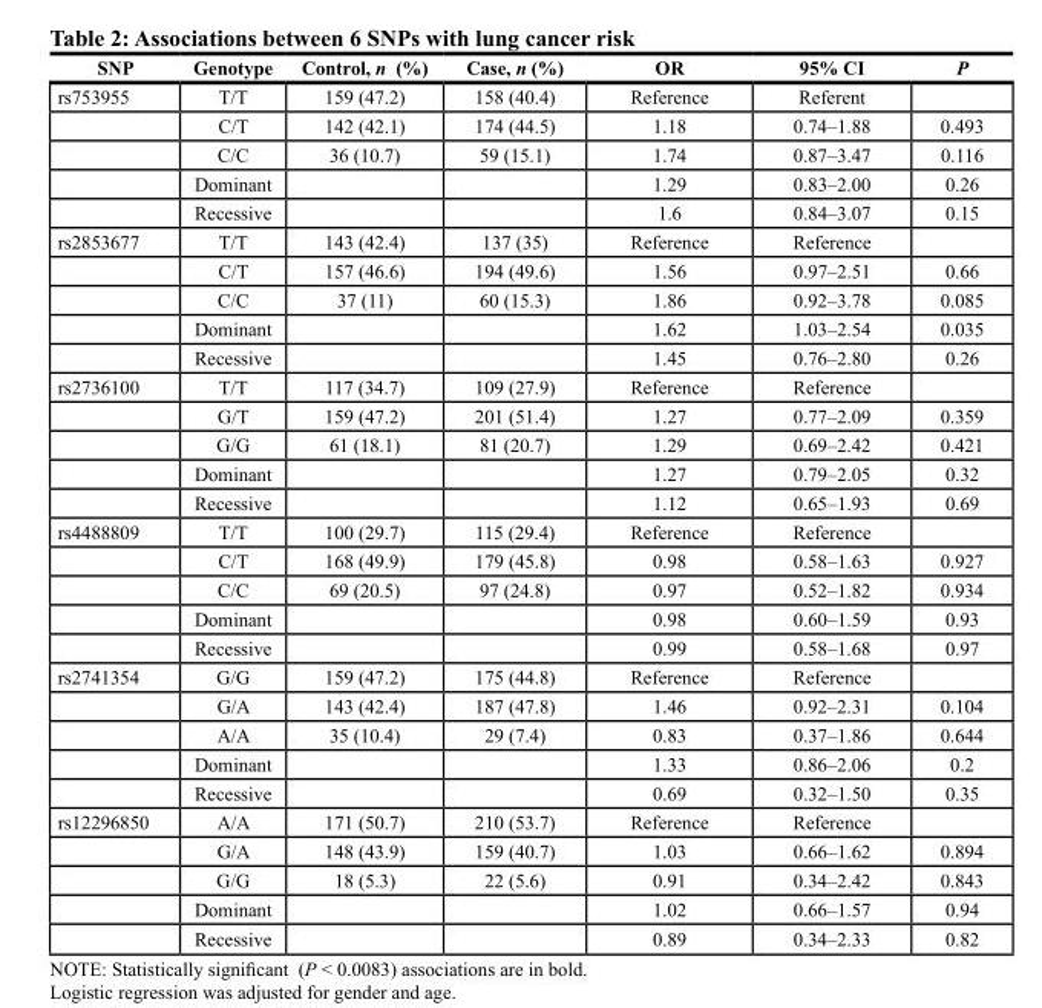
<table><thead><tr><td>snP</td><td>Genotype</td><td>control, n (%)</td><td>case, n (%)</td><td>or</td><td>95% cI</td><td>P</td></tr></thead><tbody><tr><td rowspan="5">rs753955</td><td>T/T</td><td>159 (47.2)</td><td>158 (40.4)</td><td>Reference</td><td>Referent</td><td></td></tr><tr><td>C/T</td><td>142 (42.1)</td><td>174 (44.5)</td><td>1.18</td><td>0.74–1.88</td><td>0.493</td></tr><tr><td>C/C</td><td>36 (10.7)</td><td>59 (15.1)</td><td>1.74</td><td>0.87–3.47</td><td>0.116</td></tr><tr><td>Dominant</td><td></td><td></td><td>1.29</td><td>0.83–2.00</td><td>0.26</td></tr><tr><td>Recessive</td><td></td><td></td><td>1.6</td><td>0.84–3.07</td><td>0.15</td></tr><tr><td rowspan="5">rs2853677</td><td>T/T</td><td>143 (42.4)</td><td>137 (35)</td><td>Reference</td><td>Reference</td><td></td></tr><tr><td>C/T</td><td>157 (46.6)</td><td>194 (49.6)</td><td>1.56</td><td>0.97–2.51</td><td>0.66</td></tr><tr><td>C/C</td><td>37 (11)</td><td>60 (15.3)</td><td>1.86</td><td>0.92–3.78</td><td>0.085</td></tr><tr><td>Dominant</td><td></td><td></td><td>1.62</td><td>1.03–2.54</td><td>0.035</td></tr><tr><td>Recessive</td><td></td><td></td><td>1.45</td><td>0.76–2.80</td><td>0.26</td></tr><tr><td rowspan="5">rs2736100</td><td>T/T</td><td>117 (34.7)</td><td>109 (27.9)</td><td>Reference</td><td>Reference</td><td></td></tr><tr><td>G/T</td><td>159 (47.2)</td><td>201 (51.4)</td><td>1.27</td><td>0.77–2.09</td><td>0.359</td></tr><tr><td>G/G</td><td>61 (18.1)</td><td>81 (20.7)</td><td>1.29</td><td>0.69–2.42</td><td>0.421</td></tr><tr><td>Dominant</td><td></td><td></td><td>1.27</td><td>0.79–2.05</td><td>0.32</td></tr><tr><td>Recessive</td><td></td><td></td><td>1.12</td><td>0.65–1.93</td><td>0.69</td></tr><tr><td rowspan="5">rs4488809</td><td>T/T</td><td>100 (29.7)</td><td>115 (29.4)</td><td>Reference</td><td>Reference</td><td></td></tr><tr><td>C/T</td><td>168 (49.9)</td><td>179 (45.8)</td><td>0.98</td><td>0.58–1.63</td><td>0.927</td></tr><tr><td>C/C</td><td>69 (20.5)</td><td>97 (24.8)</td><td>0.97</td><td>0.52–1.82</td><td>0.934</td></tr><tr><td>Dominant</td><td></td><td></td><td>0.98</td><td>0.60–1.59</td><td>0.93</td></tr><tr><td>Recessive</td><td></td><td></td><td>0.99</td><td>0.58–1.68</td><td>0.97</td></tr><tr><td rowspan="5">rs2741354</td><td>G/G</td><td>159 (47.2)</td><td>175 (44.8)</td><td>Reference</td><td>Reference</td><td></td></tr><tr><td>G/A</td><td>143 (42.4)</td><td>187 (47.8)</td><td>1.46</td><td>0.92–2.31</td><td>0.104</td></tr><tr><td>A/A</td><td>35 (10.4)</td><td>29 (7.4)</td><td>0.83</td><td>0.37–1.86</td><td>0.644</td></tr><tr><td>Dominant</td><td></td><td></td><td>1.33</td><td>0.86–2.06</td><td>0.2</td></tr><tr><td>Recessive</td><td></td><td></td><td>0.69</td><td>0.32–1.50</td><td>0.35</td></tr><tr><td rowspan="5">rs12296850</td><td>A/A</td><td>171 (50.7)</td><td>210 (53.7)</td><td>Reference</td><td>Reference</td><td></td></tr><tr><td>G/A</td><td>148 (43.9)</td><td>159 (40.7)</td><td>1.03</td><td>0.66–1.62</td><td>0.894</td></tr><tr><td>G/G</td><td>18 (5.3)</td><td>22 (5.6)</td><td>0.91</td><td>0.34–2.42</td><td>0.843</td></tr><tr><td>Dominant</td><td></td><td></td><td>1.02</td><td>0.66–1.57</td><td>0.94</td></tr><tr><td>Recessive</td><td></td><td></td><td>0.89</td><td>0.34–2.33</td><td>0.82</td></tr></tbody></table>